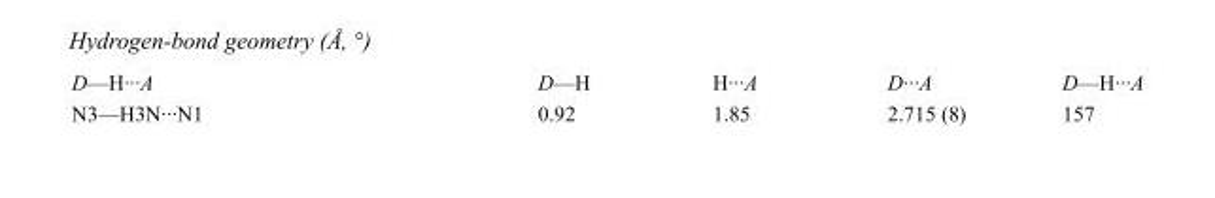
<table><tbody><tr><td>D—H···A</td><td>D—H</td><td>H···A</td><td>D···A</td><td>D—H···A</td></tr><tr><td>N3—H3N···N1</td><td>0.92</td><td>1.85</td><td>2.715 (8)</td><td>157</td></tr></tbody></table>